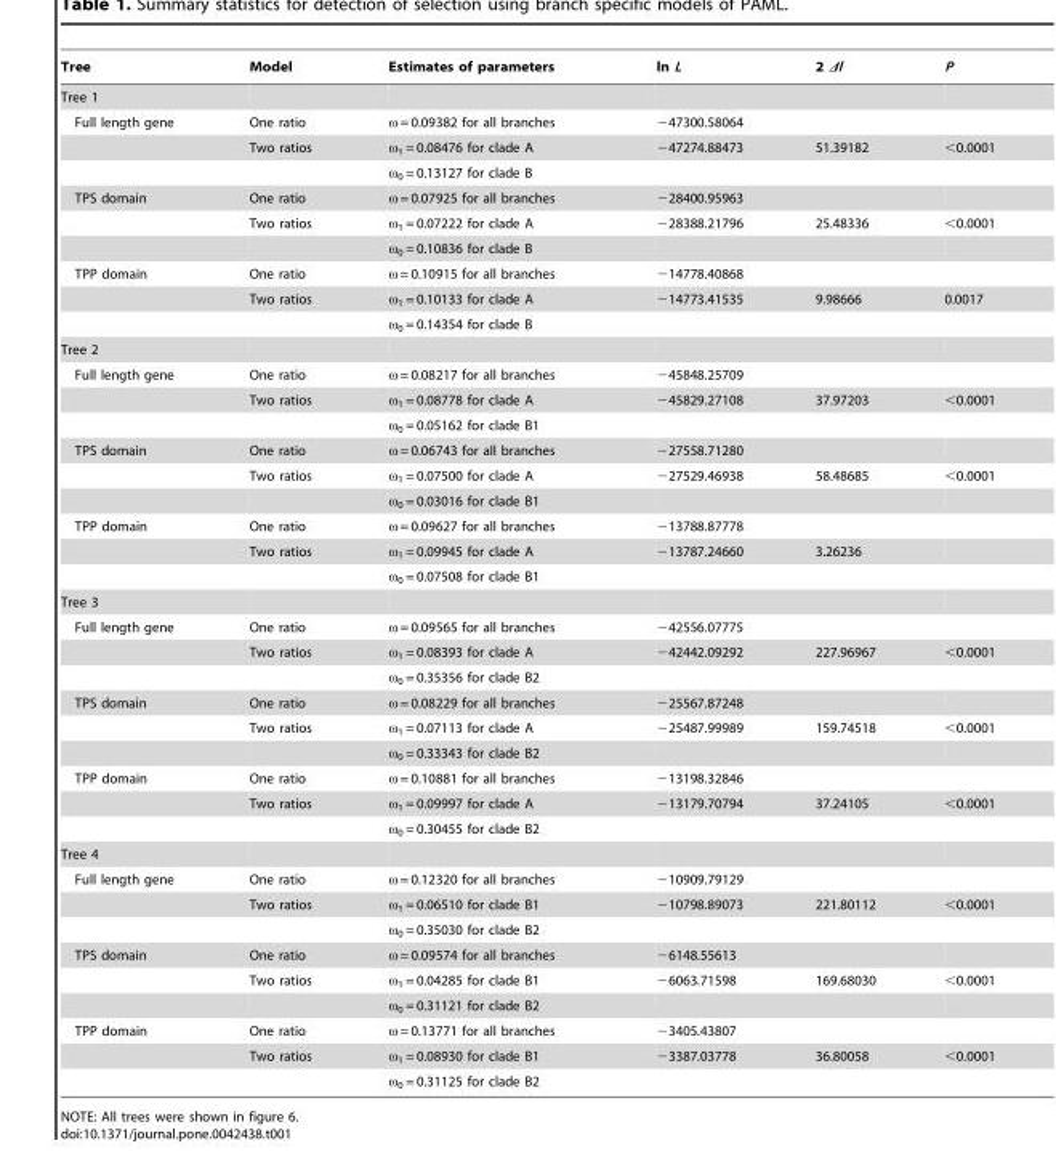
<table><thead><tr><td>Tree</td><td>Model</td><td>Estimates of parameters</td><td>ln L</td><td>2 Δl</td><td>P</td></tr></thead><tbody><tr><td colspan="6">Tree 1</td></tr><tr><td rowspan="3">Full length gene</td><td>One ratio</td><td>ω = 0.09382 for all branches</td><td>−47300.58064</td><td></td><td></td></tr><tr><td>Two ratios</td><td>ω<sub>1</sub> = 0.08476 for clade A</td><td>−47274.88473</td><td>51.39182</td><td>&lt;0.0001</td></tr><tr><td></td><td>ω<sub>0</sub> = 0.13127 for clade B</td><td></td><td></td><td></td></tr><tr><td rowspan="3">TPS domain</td><td>One ratio</td><td>ω = 0.07925 for all branches</td><td>−28400.95963</td><td></td><td></td></tr><tr><td>Two ratios</td><td>ω<sub>1</sub> = 0.07222 for clade A</td><td>−28388.21796</td><td>25.48336</td><td>&lt;0.0001</td></tr><tr><td></td><td>ω<sub>0</sub> = 0.10836 for clade B</td><td></td><td></td><td></td></tr><tr><td rowspan="3">TPP domain</td><td>One ratio</td><td>ω = 0.10915 for all branches</td><td>−14778.40868</td><td></td><td></td></tr><tr><td>Two ratios</td><td>ω<sub>1</sub> = 0.10133 for clade A</td><td>−14773.41535</td><td>9.98666</td><td>0.0017</td></tr><tr><td></td><td>ω<sub>0</sub> = 0.14354 for clade B</td><td></td><td></td><td></td></tr><tr><td colspan="6">Tree 2</td></tr><tr><td rowspan="3">Full length gene</td><td>One ratio</td><td>ω = 0.08217 for all branches</td><td>−45848.25709</td><td></td><td></td></tr><tr><td>Two ratios</td><td>ω<sub>1</sub> = 0.08778 for clade A</td><td>−45829.27108</td><td>37.97203</td><td>&lt;0.0001</td></tr><tr><td></td><td>ω<sub>0</sub> = 0.05162 for clade B1</td><td></td><td></td><td></td></tr><tr><td rowspan="3">TPS domain</td><td>One ratio</td><td>ω = 0.06743 for all branches</td><td>−27558.71280</td><td></td><td></td></tr><tr><td>Two ratios</td><td>ω<sub>1</sub> = 0.07500 for clade A</td><td>−27529.46938</td><td>58.48685</td><td>&lt;0.0001</td></tr><tr><td></td><td>ω<sub>0</sub> = 0.03016 for clade B1</td><td></td><td></td><td></td></tr><tr><td rowspan="3">TPP domain</td><td>One ratio</td><td>ω = 0.09627 for all branches</td><td>−13788.87778</td><td></td><td></td></tr><tr><td>Two ratios</td><td>ω<sub>1</sub> = 0.09945 for clade A</td><td>−13787.24660</td><td>3.26236</td><td></td></tr><tr><td></td><td>ω<sub>0</sub> = 0.07508 for clade B1</td><td></td><td></td><td></td></tr><tr><td colspan="6">Tree 3</td></tr><tr><td rowspan="3">Full length gene</td><td>One ratio</td><td>ω = 0.09565 for all branches</td><td>−42556.07775</td><td></td><td></td></tr><tr><td>Two ratios</td><td>ω<sub>1</sub> = 0.08393 for clade A</td><td>−42442.09292</td><td>227.96967</td><td>&lt;0.0001</td></tr><tr><td></td><td>ω<sub>0</sub> = 0.35356 for clade B2</td><td></td><td></td><td></td></tr><tr><td rowspan="3">TPS domain</td><td>One ratio</td><td>ω = 0.08229 for all branches</td><td>−25567.87248</td><td></td><td></td></tr><tr><td>Two ratios</td><td>ω<sub>1</sub> = 0.07113 for clade A</td><td>−25487.99989</td><td>159.74518</td><td>&lt;0.0001</td></tr><tr><td></td><td>ω<sub>0</sub> = 0.33343 for clade B2</td><td></td><td></td><td></td></tr><tr><td rowspan="3">TPP domain</td><td>One ratio</td><td>ω = 0.10881 for all branches</td><td>−13198.32846</td><td></td><td></td></tr><tr><td>Two ratios</td><td>ω<sub>1</sub> = 0.09997 for clade A</td><td>−13179.70794</td><td>37.24105</td><td>&lt;0.0001</td></tr><tr><td></td><td>ω<sub>0</sub> = 0.30455 for clade B2</td><td></td><td></td><td></td></tr><tr><td colspan="6">Tree 4</td></tr><tr><td rowspan="3">Full length gene</td><td>One ratio</td><td>ω = 0.12320 for all branches</td><td>−10909.79129</td><td></td><td></td></tr><tr><td>Two ratios</td><td>ω<sub>1</sub> = 0.06510 for clade B1</td><td>−10798.89073</td><td>221.80112</td><td>&lt;0.0001</td></tr><tr><td></td><td>ω<sub>0</sub> = 0.35030 for clade B2</td><td></td><td></td><td></td></tr><tr><td rowspan="3">TPS domain</td><td>One ratio</td><td>ω = 0.09574 for all branches</td><td>−6148.55613</td><td></td><td></td></tr><tr><td>Two ratios</td><td>ω<sub>1</sub> = 0.04285 for clade B1</td><td>−6063.71598</td><td>169.68030</td><td>&lt;0.0001</td></tr><tr><td></td><td>ω<sub>0</sub> = 0.31121 for clade B2</td><td></td><td></td><td></td></tr><tr><td rowspan="3">TPP domain</td><td>One ratio</td><td>ω = 0.13771 for all branches</td><td>−3405.43807</td><td></td><td></td></tr><tr><td>Two ratios</td><td>ω<sub>1</sub> = 0.08930 for clade B1</td><td>−3387.03778</td><td>36.80058</td><td>&lt;0.0001</td></tr><tr><td></td><td>ω<sub>0</sub> = 0.31125 for clade B2</td><td></td><td></td><td></td></tr></tbody></table>